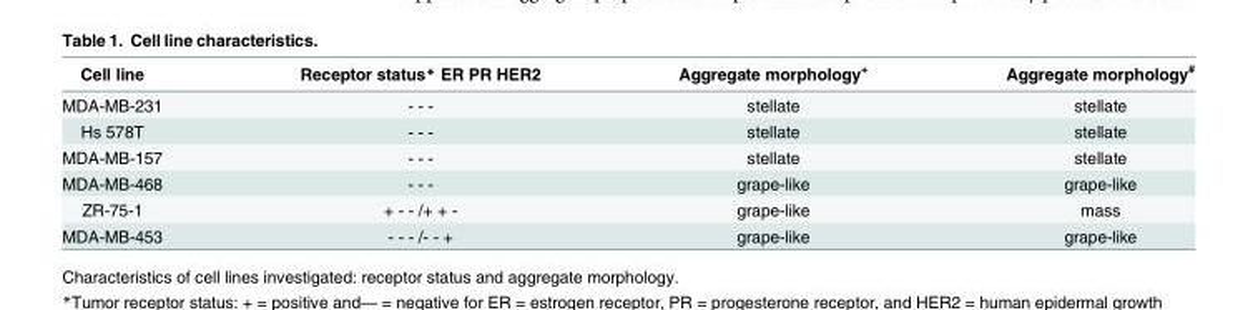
<table><thead><tr><td>Cell line</td><td>Receptor status* ER PR HER2</td><td>Aggregate morphology<sup>+</sup></td><td>Aggregate morphology<sup>#</sup></td></tr></thead><tbody><tr><td>MDA-MB-231</td><td>- - -</td><td>stellate</td><td>stellate</td></tr><tr><td>Hs 578T</td><td>- - -</td><td>stellate</td><td>stellate</td></tr><tr><td>MDA-MB-157</td><td>- - -</td><td>stellate</td><td>stellate</td></tr><tr><td>MDA-MB-468</td><td>- - -</td><td>grape-like</td><td>grape-like</td></tr><tr><td>ZR-75-1</td><td>+ - - /+ + -</td><td>grape-like</td><td>mass</td></tr><tr><td>MDA-MB-453</td><td>- - - /- - +</td><td>grape-like</td><td>grape-like</td></tr></tbody></table>